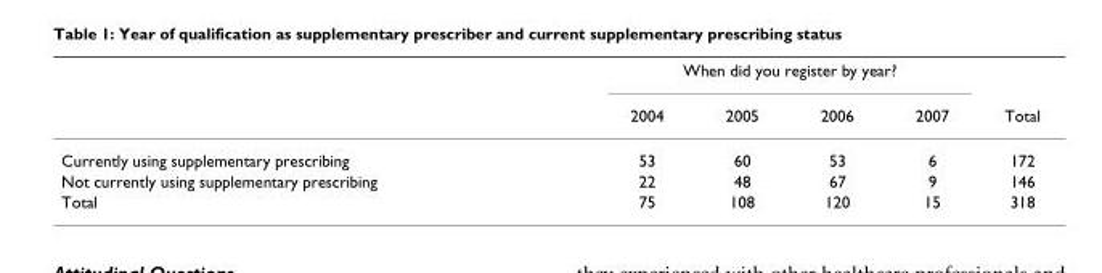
<table><thead><tr><td rowspan="2"></td><td colspan="4">When did you register by year?</td><td rowspan="2">Total</td></tr><tr><td>2004</td><td>2005</td><td>2006</td><td>2007</td></tr></thead><tbody><tr><td>Currently using supplementary prescribing</td><td>53</td><td>60</td><td>53</td><td>6</td><td>172</td></tr><tr><td>Not currently using supplementary prescribing</td><td>22</td><td>48</td><td>67</td><td>9</td><td>146</td></tr><tr><td>Total</td><td>75</td><td>108</td><td>120</td><td>15</td><td>318</td></tr></tbody></table>